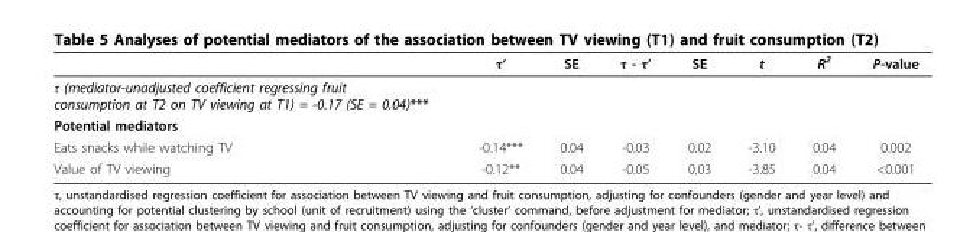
<table><thead><tr><td></td><td>τ’</td><td>SE</td><td>τ - τ’</td><td>SE</td><td>t</td><td>R<sup>2</sup></td><td>P-value</td></tr></thead><tbody><tr><td colspan="8">τ (mediator-unadjusted coefficient regressing fruit consumption at T2 on TV viewing at T1) = -0.17 (SE = 0.04)***</td></tr><tr><td colspan="8">Potential mediators</td></tr><tr><td>Eats snacks while watching TV</td><td>-0.14***</td><td>0.04</td><td>-0.03</td><td>0.02</td><td>-3.10</td><td>0.04</td><td>0.002</td></tr><tr><td>Value of TV viewing</td><td>-0.12**</td><td>0.04</td><td>-0.05</td><td>0.03</td><td>-3.85</td><td>0.04</td><td>&lt;0.001</td></tr></tbody></table>